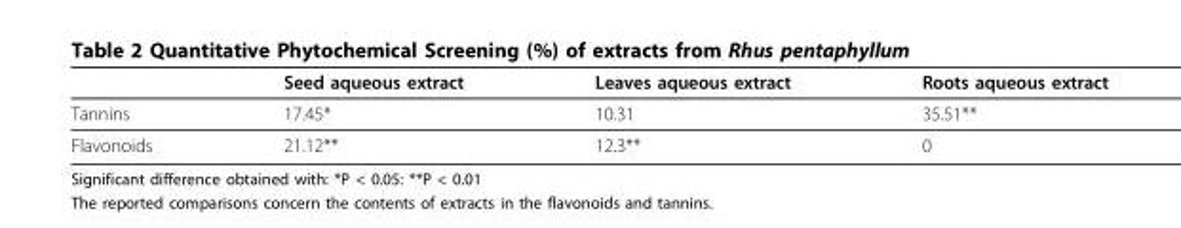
<table><thead><tr><td></td><td>Seed aqueous extract</td><td>Leaves aqueous extract</td><td>Roots aqueous extract</td></tr></thead><tbody><tr><td>Tannins</td><td>17.45*</td><td>10.31</td><td>35.51**</td></tr><tr><td>Flavonoids</td><td>21.12**</td><td>12.3**</td><td>0</td></tr></tbody></table>